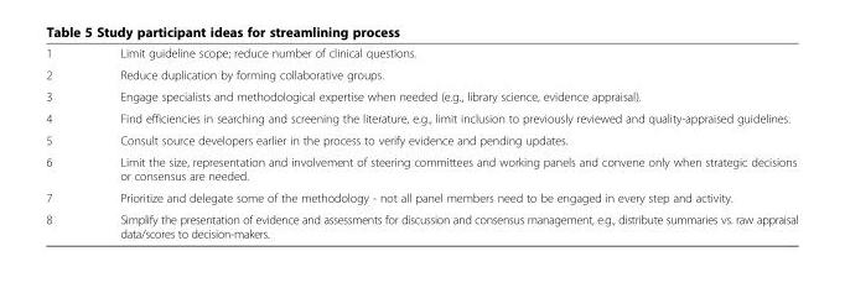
<table><tbody><tr><td>1</td><td>Limit guideline scope; reduce number of clinical questions.</td></tr><tr><td>2</td><td>Reduce duplication by forming collaborative groups.</td></tr><tr><td>3</td><td>Engage specialists and methodological expertise when needed (e.g., library science, evidence appraisal).</td></tr><tr><td>4</td><td>Find efficiencies in searching and screening the literature, e.g., limit inclusion to previously reviewed and quality-appraised guidelines.</td></tr><tr><td>5</td><td>Consult source developers earlier in the process to verify evidence and pending updates.</td></tr><tr><td>6</td><td>Limit the size, representation and involvement of steering committees and working panels and convene only when strategic decisions or consensus are needed.</td></tr><tr><td>7</td><td>Prioritize and delegate some of the methodology - not all panel members need to be engaged in every step and activity.</td></tr><tr><td>8</td><td>Simplify the presentation of evidence and assessments for discussion and consensus management, e.g., distribute summaries vs. raw appraisal data/scores to decision-makers.</td></tr></tbody></table>